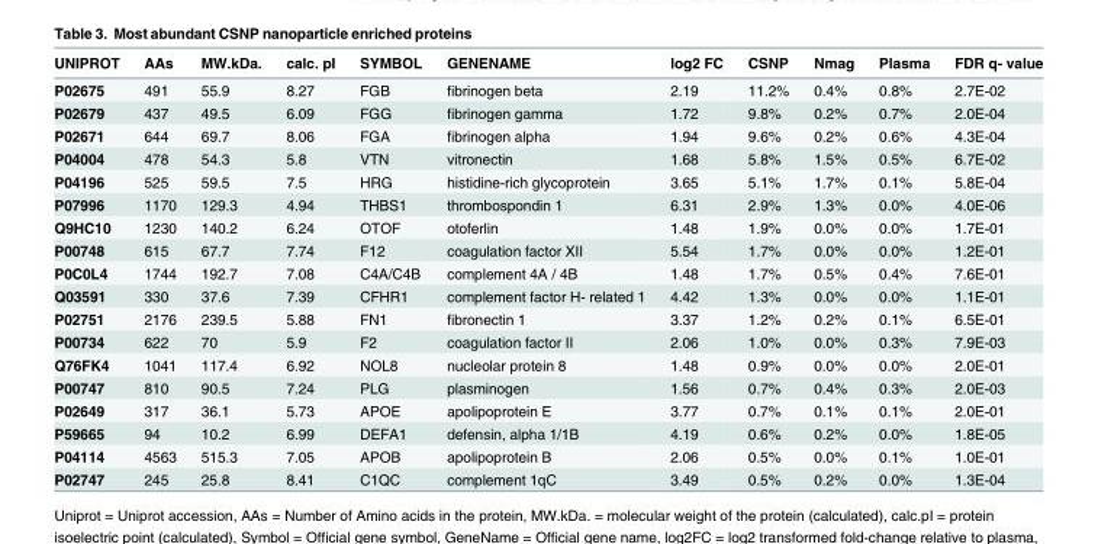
<table><thead><tr><td>UNIPROT</td><td>AAs</td><td>MW.kDa.</td><td>calc. pI</td><td>SYMBOL</td><td>GENENAME</td><td>log2 FC</td><td>CSNP</td><td>Nmag</td><td>Plasma</td><td>FDR q‐ value</td></tr></thead><tbody><tr><td>P02675</td><td>491</td><td>55.9</td><td>8.27</td><td>FGB</td><td>fibrinogen beta</td><td>2.19</td><td>11.2%</td><td>0.4%</td><td>0.8%</td><td>2.7E‐02</td></tr><tr><td>P02679</td><td>437</td><td>49.5</td><td>6.09</td><td>FGG</td><td>fibrinogen gamma</td><td>1.72</td><td>9.8%</td><td>0.2%</td><td>0.7%</td><td>2.0E‐04</td></tr><tr><td>P02671</td><td>644</td><td>69.7</td><td>8.06</td><td>FGA</td><td>fibrinogen alpha</td><td>1.94</td><td>9.6%</td><td>0.2%</td><td>0.6%</td><td>4.3E‐04</td></tr><tr><td>P04004</td><td>478</td><td>54.3</td><td>5.8</td><td>VTN</td><td>vitronectin</td><td>1.68</td><td>5.8%</td><td>1.5%</td><td>0.5%</td><td>6.7E‐02</td></tr><tr><td>P04196</td><td>525</td><td>59.5</td><td>7.5</td><td>HRG</td><td>histidine‐rich glycoprotein</td><td>3.65</td><td>5.1%</td><td>1.7%</td><td>0.1%</td><td>5.8E‐04</td></tr><tr><td>P07996</td><td>1170</td><td>129.3</td><td>4.94</td><td>THBS1</td><td>thrombospondin 1</td><td>6.31</td><td>2.9%</td><td>1.3%</td><td>0.0%</td><td>4.0E‐06</td></tr><tr><td>Q9HC10</td><td>1230</td><td>140.2</td><td>6.24</td><td>OTOF</td><td>otoferlin</td><td>1.48</td><td>1.9%</td><td>0.0%</td><td>0.0%</td><td>1.7E‐01</td></tr><tr><td>P00748</td><td>615</td><td>67.7</td><td>7.74</td><td>F12</td><td>coagulation factor XII</td><td>5.54</td><td>1.7%</td><td>0.0%</td><td>0.0%</td><td>1.2E‐01</td></tr><tr><td>P0C0L4</td><td>1744</td><td>192.7</td><td>7.08</td><td>C4A/C4B</td><td>complement 4A / 4B</td><td>1.48</td><td>1.7%</td><td>0.5%</td><td>0.4%</td><td>7.6E‐01</td></tr><tr><td>Q03591</td><td>330</td><td>37.6</td><td>7.39</td><td>CFHR1</td><td>complement factor H‐ related 1</td><td>4.42</td><td>1.3%</td><td>0.0%</td><td>0.0%</td><td>1.1E‐01</td></tr><tr><td>P02751</td><td>2176</td><td>239.5</td><td>5.88</td><td>FN1</td><td>fibronectin 1</td><td>3.37</td><td>1.2%</td><td>0.2%</td><td>0.1%</td><td>6.5E‐01</td></tr><tr><td>P00734</td><td>622</td><td>70</td><td>5.9</td><td>F2</td><td>coagulation factor II</td><td>2.06</td><td>1.0%</td><td>0.0%</td><td>0.3%</td><td>7.9E‐03</td></tr><tr><td>Q76FK4</td><td>1041</td><td>117.4</td><td>6.92</td><td>NOL8</td><td>nucleolar protein 8</td><td>1.48</td><td>0.9%</td><td>0.0%</td><td>0.0%</td><td>2.0E‐01</td></tr><tr><td>P00747</td><td>810</td><td>90.5</td><td>7.24</td><td>PLG</td><td>plasminogen</td><td>1.56</td><td>0.7%</td><td>0.4%</td><td>0.3%</td><td>2.0E‐03</td></tr><tr><td>P02649</td><td>317</td><td>36.1</td><td>5.73</td><td>APOE</td><td>apolipoprotein E</td><td>3.77</td><td>0.7%</td><td>0.1%</td><td>0.1%</td><td>2.0E‐01</td></tr><tr><td>P59665</td><td>94</td><td>10.2</td><td>6.99</td><td>DEFA1</td><td>defensin, alpha 1/1B</td><td>4.19</td><td>0.6%</td><td>0.2%</td><td>0.0%</td><td>1.8E‐05</td></tr><tr><td>P04114</td><td>4563</td><td>515.3</td><td>7.05</td><td>APOB</td><td>apolipoprotein B</td><td>2.06</td><td>0.5%</td><td>0.0%</td><td>0.1%</td><td>1.0E‐01</td></tr><tr><td>P02747</td><td>245</td><td>25.8</td><td>8.41</td><td>C1QC</td><td>complement 1qC</td><td>3.49</td><td>0.5%</td><td>0.2%</td><td>0.0%</td><td>1.3E‐04</td></tr></tbody></table>